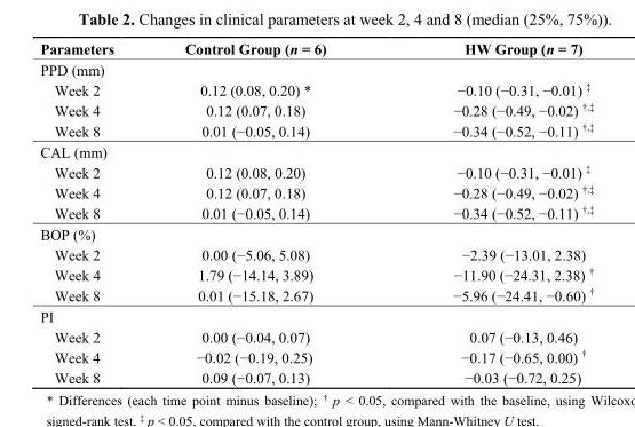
<table><thead><tr><td>Parameters</td><td>Control Group (n = 6)</td><td>HW Group (n = 7)</td></tr></thead><tbody><tr><td colspan="3">PPD (mm)</td></tr><tr><td>Week 2</td><td>0.12 (0.08, 0.20) *</td><td>−0.10 (−0.31, −0.01) <sup>‡</sup></td></tr><tr><td>Week 4</td><td>0.12 (0.07, 0.18)</td><td>−0.28 (−0.49, −0.02) <sup>†,‡</sup></td></tr><tr><td>Week 8</td><td>0.01 (−0.05, 0.14)</td><td>−0.34 (−0.52, −0.11) <sup>†,‡</sup></td></tr><tr><td colspan="3">CAL (mm)</td></tr><tr><td>Week 2</td><td>0.12 (0.08, 0.20)</td><td>−0.10 (−0.31, −0.01) <sup>‡</sup></td></tr><tr><td>Week 4</td><td>0.12 (0.07, 0.18)</td><td>−0.28 (−0.49, −0.02) <sup>†,‡</sup></td></tr><tr><td>Week 8</td><td>0.01 (−0.05, 0.14)</td><td>−0.34 (−0.52, −0.11) <sup>†,‡</sup></td></tr><tr><td colspan="3">BOP (%)</td></tr><tr><td>Week 2</td><td>0.00 (−5.06, 5.08)</td><td>−2.39 (−13.01, 2.38)</td></tr><tr><td>Week 4</td><td>1.79 (−14.14, 3.89)</td><td>−11.90 (−24.31, 2.38) <sup>†</sup></td></tr><tr><td>Week 8</td><td>0.01 (−15.18, 2.67)</td><td>−5.96 (−24.41, −0.60) <sup>†</sup></td></tr><tr><td colspan="3">PI</td></tr><tr><td>Week 2</td><td>0.00 (−0.04, 0.07)</td><td>0.07 (−0.13, 0.46)</td></tr><tr><td>Week 4</td><td>−0.02 (−0.19, 0.25)</td><td>−0.17 (−0.65, 0.00) <sup>†</sup></td></tr><tr><td>Week 8</td><td>0.09 (−0.07, 0.13)</td><td>−0.03 (−0.72, 0.25)</td></tr></tbody></table>